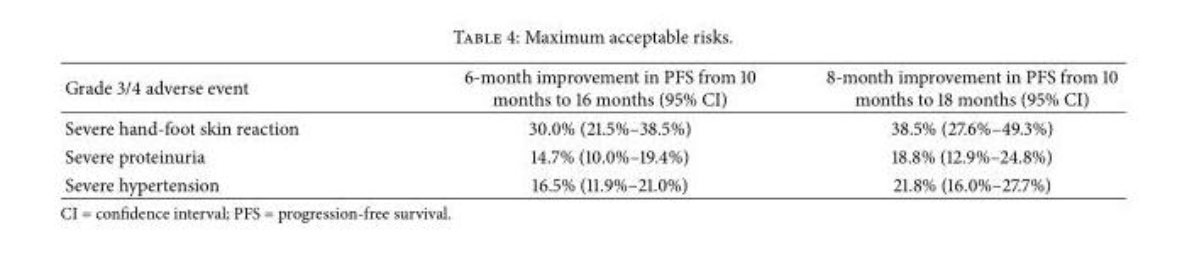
<table><thead><tr><td>Grade 3/4 adverse event</td><td>6-month improvement in PFS from 10 months to 16 months (95% CI)</td><td>8-month improvement in PFS from 10 months to 18 months (95% CI)</td></tr></thead><tbody><tr><td>Severe hand-foot skin reaction</td><td>30.0% (21.5%–38.5%)</td><td>38.5% (27.6%–49.3%)</td></tr><tr><td>Severe proteinuria</td><td>14.7% (10.0%–19.4%)</td><td>18.8% (12.9%–24.8%)</td></tr><tr><td>Severe hypertension</td><td>16.5% (11.9%–21.0%)</td><td>21.8% (16.0%–27.7%)</td></tr></tbody></table>